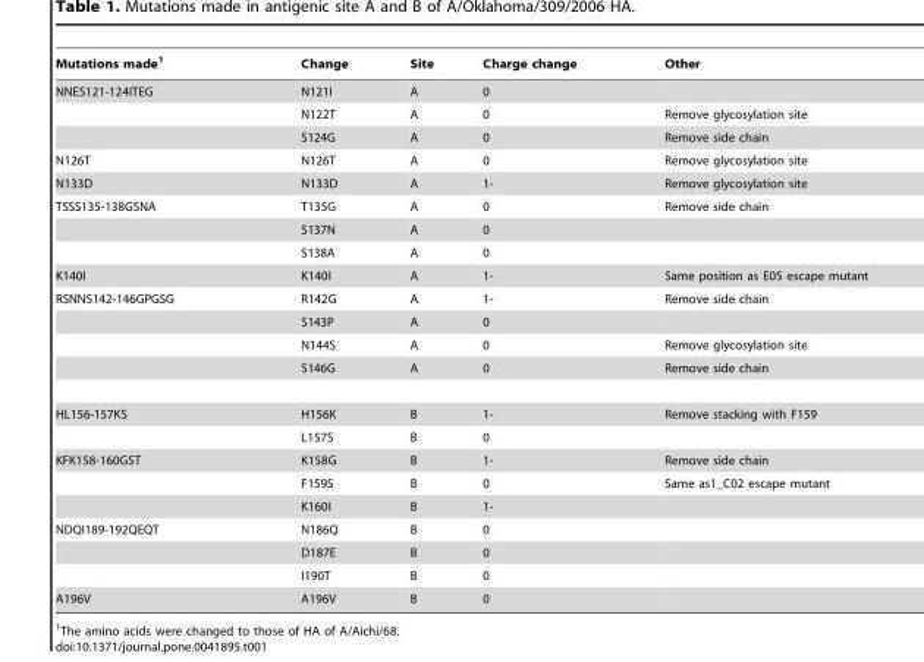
<table><thead><tr><td>Mutations made<sup>1</sup></td><td>Change</td><td>Site</td><td>Charge change</td><td>Other</td></tr></thead><tbody><tr><td rowspan="3">NNES121-124ITEG</td><td>N121I</td><td>A</td><td>0</td><td></td></tr><tr><td>N122T</td><td>A</td><td>0</td><td>Remove glycosylation site</td></tr><tr><td>S124G</td><td>A</td><td>0</td><td>Remove side chain</td></tr><tr><td>N126T</td><td>N126T</td><td>A</td><td>0</td><td>Remove glycosylation site</td></tr><tr><td>N133D</td><td>N133D</td><td>A</td><td>1-</td><td>Remove glycosylation site</td></tr><tr><td rowspan="3">TSSS135-138GSNA</td><td>T135G</td><td>A</td><td>0</td><td>Remove side chain</td></tr><tr><td>S137N</td><td>A</td><td>0</td><td></td></tr><tr><td>S138A</td><td>A</td><td>0</td><td></td></tr><tr><td>K140I</td><td>K140I</td><td>A</td><td>1-</td><td>Same position as E05 escape mutant</td></tr><tr><td rowspan="4">RSNNS142-146GPGSG</td><td>R142G</td><td>A</td><td>1-</td><td>Remove side chain</td></tr><tr><td>S143P</td><td>A</td><td>0</td><td></td></tr><tr><td>N144S</td><td>A</td><td>0</td><td>Remove glycosylation site</td></tr><tr><td>S146G</td><td>A</td><td>0</td><td>Remove side chain</td></tr><tr><td rowspan="2">HL156-157KS</td><td>H156K</td><td>B</td><td>1-</td><td>Remove stacking with F159</td></tr><tr><td>L157S</td><td>B</td><td>0</td><td></td></tr><tr><td rowspan="3">KFK158-160GST</td><td>K158G</td><td>B</td><td>1-</td><td>Remove side chain</td></tr><tr><td>F159S</td><td>B</td><td>0</td><td>Same as1_C02 escape mutant</td></tr><tr><td>K160I</td><td>B</td><td>1-</td><td></td></tr><tr><td rowspan="3">NDQI189-192QEQT</td><td>N186Q</td><td>B</td><td>0</td><td></td></tr><tr><td>D187E</td><td>B</td><td>0</td><td></td></tr><tr><td>I190T</td><td>B</td><td>0</td><td></td></tr><tr><td>A196V</td><td>A196V</td><td>B</td><td>0</td><td></td></tr></tbody></table>